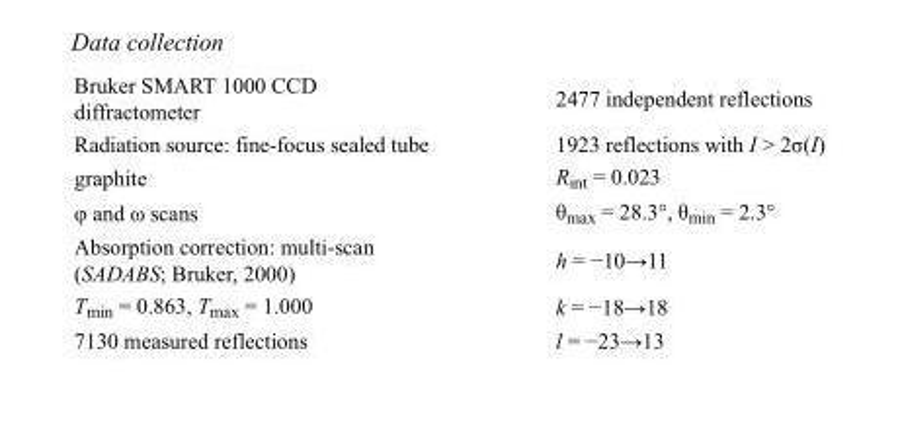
<table><tbody><tr><td>Bruker SMART 1000 CCD diffractometer</td><td>2477 independent reflections</td></tr><tr><td>Radiation source: fine-focus sealed tube</td><td>1923 reflections with I &gt; 2σ(I)</td></tr><tr><td>graphite</td><td>R<sub>int</sub> = 0.023</td></tr><tr><td>φ and ω scans</td><td>θ<sub>max</sub> = 28.3°, θ<sub>min</sub> = 2.3°</td></tr><tr><td>Absorption correction: multi-scan (SADABS; Bruker, 2000)</td><td>h = −10→11</td></tr><tr><td>T<sub>min</sub> = 0.863, T<sub>max</sub> = 1.000</td><td>k = −18→18</td></tr><tr><td>7130 measured reflections</td><td>l = −23→13</td></tr></tbody></table>